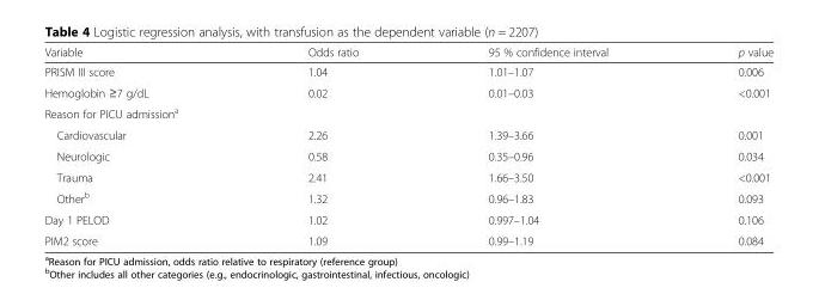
<table><thead><tr><td>Variable</td><td>Odds ratio</td><td>95 % confidence interval</td><td>p value</td></tr></thead><tbody><tr><td>PRISM III score</td><td>1.04</td><td>1.01–1.07</td><td>0.006</td></tr><tr><td>Hemoglobin ≥7 g/dL</td><td>0.02</td><td>0.01–0.03</td><td>&lt;0.001</td></tr><tr><td colspan="4">Reason for PICU admission<sup>a</sup></td></tr><tr><td>Cardiovascular</td><td>2.26</td><td>1.39–3.66</td><td>0.001</td></tr><tr><td>Neurologic</td><td>0.58</td><td>0.35–0.96</td><td>0.034</td></tr><tr><td>Trauma</td><td>2.41</td><td>1.66–3.50</td><td>&lt;0.001</td></tr><tr><td>Other<sup>b</sup></td><td>1.32</td><td>0.96–1.83</td><td>0.093</td></tr><tr><td>Day 1 PELOD</td><td>1.02</td><td>0.997–1.04</td><td>0.106</td></tr><tr><td>PIM2 score</td><td>1.09</td><td>0.99–1.19</td><td>0.084</td></tr></tbody></table>